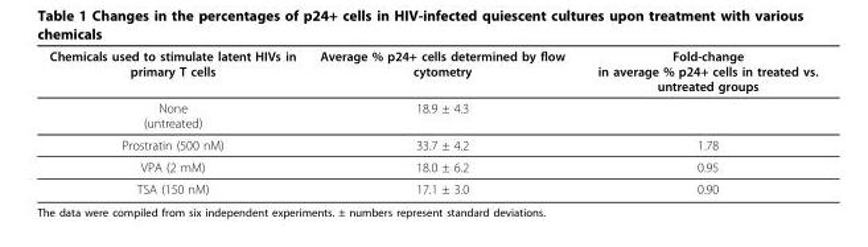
<table><thead><tr><td>Chemicals used to stimulate latent HIVs in primary T cells</td><td>Average % p24+ cells determined by flow cytometry</td><td>Fold-change in average % p24+ cells in treated vs. untreated groups</td></tr></thead><tbody><tr><td>None (untreated)</td><td>18.9 ± 4.3</td><td></td></tr><tr><td>Prostratin (500 nM)</td><td>33.7 ± 4.2</td><td>1.78</td></tr><tr><td>VPA (2 mM)</td><td>18.0 ± 6.2</td><td>0.95</td></tr><tr><td>TSA (150 nM)</td><td>17.1 ± 3.0</td><td>0.90</td></tr></tbody></table>